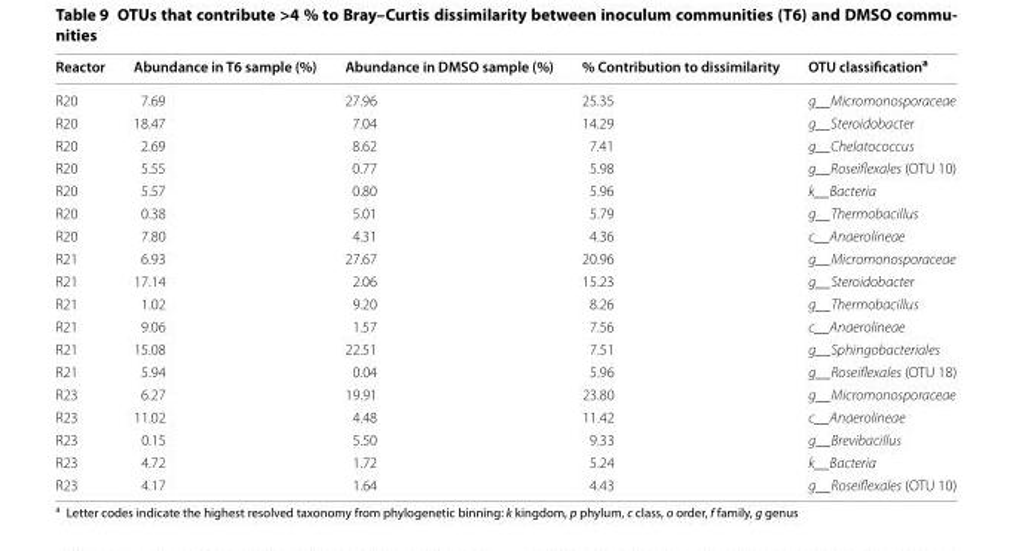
<table><thead><tr><td>Reactor</td><td>Abundance in T6 sample (%)</td><td>Abundance in DMSO sample (%)</td><td>% Contribution to dissimilarity</td><td>OTU classification<sup>a</sup></td></tr></thead><tbody><tr><td>R20</td><td>7.69</td><td>27.96</td><td>25.35</td><td>g__Micromonosporaceae</td></tr><tr><td>R20</td><td>18.47</td><td>7.04</td><td>14.29</td><td>g__Steroidobacter</td></tr><tr><td>R20</td><td>2.69</td><td>8.62</td><td>7.41</td><td>g__Chelatococcus</td></tr><tr><td>R20</td><td>5.55</td><td>0.77</td><td>5.98</td><td>g__Roseiflexales (OTU 10)</td></tr><tr><td>R20</td><td>5.57</td><td>0.80</td><td>5.96</td><td>k__Bacteria</td></tr><tr><td>R20</td><td>0.38</td><td>5.01</td><td>5.79</td><td>g__Thermobacillus</td></tr><tr><td>R20</td><td>7.80</td><td>4.31</td><td>4.36</td><td>c__Anaerolineae</td></tr><tr><td>R21</td><td>6.93</td><td>27.67</td><td>20.96</td><td>g__Micromonosporaceae</td></tr><tr><td>R21</td><td>17.14</td><td>2.06</td><td>15.23</td><td>g__Steroidobacter</td></tr><tr><td>R21</td><td>1.02</td><td>9.20</td><td>8.26</td><td>g__Thermobacillus</td></tr><tr><td>R21</td><td>9.06</td><td>1.57</td><td>7.56</td><td>c__Anaerolineae</td></tr><tr><td>R21</td><td>15.08</td><td>22.51</td><td>7.51</td><td>g__Sphingobacteriales</td></tr><tr><td>R21</td><td>5.94</td><td>0.04</td><td>5.96</td><td>g__Roseiflexales (OTU 18)</td></tr><tr><td>R23</td><td>6.27</td><td>19.91</td><td>23.80</td><td>g__Micromonosporaceae</td></tr><tr><td>R23</td><td>11.02</td><td>4.48</td><td>11.42</td><td>c__Anaerolineae</td></tr><tr><td>R23</td><td>0.15</td><td>5.50</td><td>9.33</td><td>g__Brevibacillus</td></tr><tr><td>R23</td><td>4.72</td><td>1.72</td><td>5.24</td><td>k__Bacteria</td></tr><tr><td>R23</td><td>4.17</td><td>1.64</td><td>4.43</td><td>g__Roseiflexales (OTU 10)</td></tr></tbody></table>